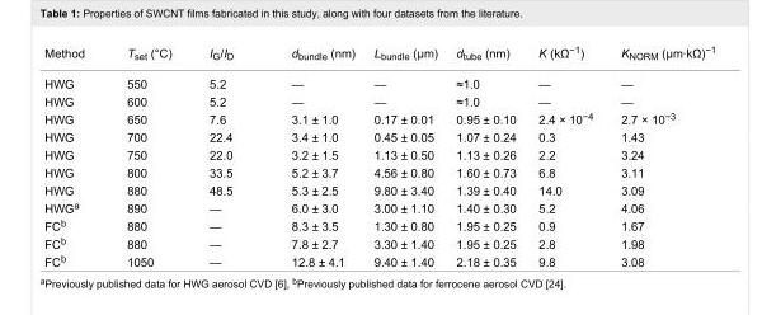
<table><tbody><tr><td>Method</td><td>T<sub>set</sub> (°C)</td><td>I<sub>G</sub>/I<sub>D</sub></td><td>d<sub>bundle</sub> (nm)</td><td>L<sub>bundle</sub> (µm)</td><td>d<sub>tube</sub> (nm)</td><td>K (kΩ<sup>−1</sup>)</td><td>K<sub>NORM</sub> (µm·kΩ)<sup>−1</sup></td></tr><tr><td>HWG</td><td>550</td><td>5.2</td><td>—</td><td>—</td><td>≈1.0</td><td>—</td><td>—</td></tr><tr><td>HWG</td><td>600</td><td>5.2</td><td>—</td><td>—</td><td>≈1.0</td><td>—</td><td>—</td></tr><tr><td>HWG</td><td>650</td><td>7.6</td><td>3.1 ± 1.0</td><td>0.17 ± 0.01</td><td>0.95 ± 0.10</td><td>2.4 × 10<sup>−4</sup></td><td>2.7 × 10<sup>−3</sup></td></tr><tr><td>HWG</td><td>700</td><td>22.4</td><td>3.4 ± 1.0</td><td>0.45 ± 0.05</td><td>1.07 ± 0.24</td><td>0.3</td><td>1.43</td></tr><tr><td>HWG</td><td>750</td><td>22.0</td><td>3.2 ± 1.5</td><td>1.13 ± 0.50</td><td>1.13 ± 0.26</td><td>2.2</td><td>3.24</td></tr><tr><td>HWG</td><td>800</td><td>33.5</td><td>5.2 ± 3.7</td><td>4.56 ± 0.80</td><td>1.60 ± 0.73</td><td>6.8</td><td>3.11</td></tr><tr><td>HWG</td><td>880</td><td>48.5</td><td>5.3 ± 2.5</td><td>9.80 ± 3.40</td><td>1.39 ± 0.40</td><td>14.0</td><td>3.09</td></tr><tr><td>HWG<sup>a</sup></td><td>890</td><td>—</td><td>6.0 ± 3.0</td><td>3.00 ± 1.10</td><td>1.40 ± 0.30</td><td>5.2</td><td>4.06</td></tr><tr><td>FC<sup>b</sup></td><td>880</td><td>—</td><td>8.3 ± 3.5</td><td>1.30 ± 0.80</td><td>1.95 ± 0.25</td><td>0.9</td><td>1.67</td></tr><tr><td>FC<sup>b</sup></td><td>880</td><td>—</td><td>7.8 ± 2.7</td><td>3.30 ± 1.40</td><td>1.95 ± 0.25</td><td>2.8</td><td>1.98</td></tr><tr><td>FC<sup>b</sup></td><td>1050</td><td>—</td><td>12.8 ± 4.1</td><td>9.40 ± 1.40</td><td>2.18 ± 0.35</td><td>9.8</td><td>3.08</td></tr></tbody></table>